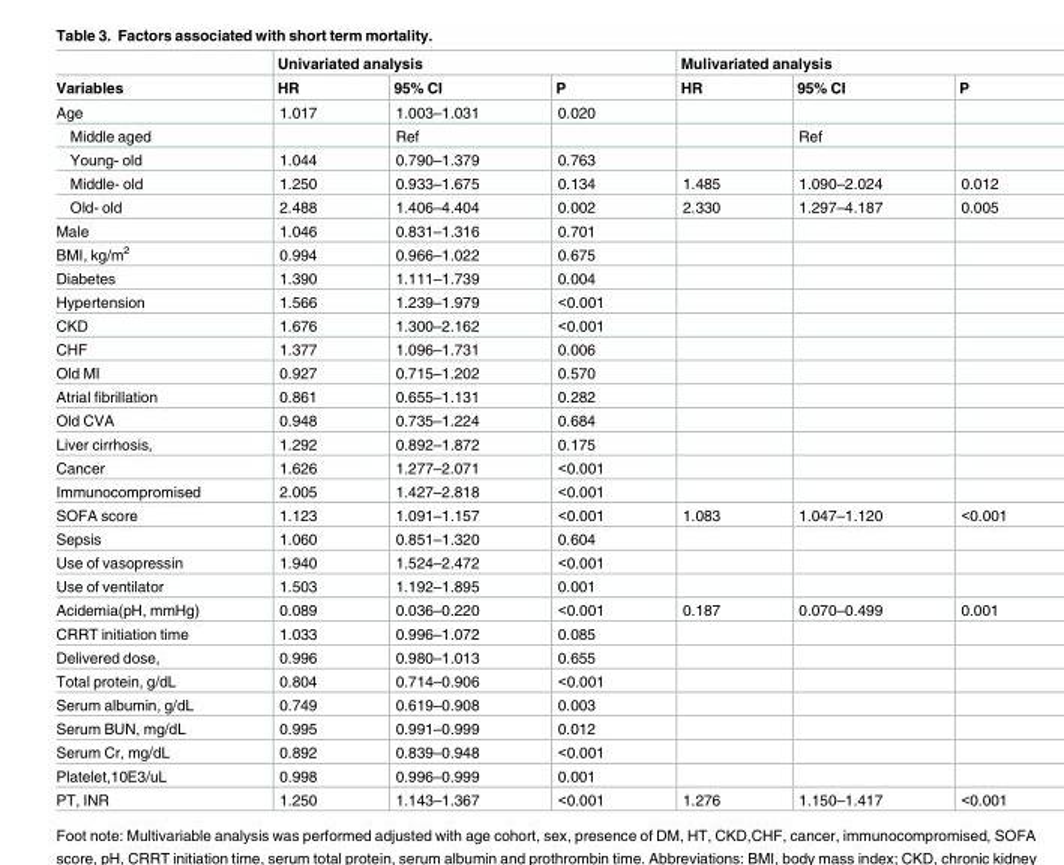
<table><thead><tr><td rowspan="2">Variables</td><td colspan="3">Univariated analysis</td><td colspan="3">Mulivariated analysis</td></tr><tr><td>HR</td><td>95% CI</td><td>P</td><td>HR</td><td>95% CI</td><td>P</td></tr></thead><tbody><tr><td>Age</td><td>1.017</td><td>1.003–1.031</td><td>0.020</td><td></td><td></td><td></td></tr><tr><td>Middle aged</td><td></td><td>Ref</td><td></td><td></td><td>Ref</td><td></td></tr><tr><td>Young- old</td><td>1.044</td><td>0.790–1.379</td><td>0.763</td><td></td><td></td><td></td></tr><tr><td>Middle- old</td><td>1.250</td><td>0.933–1.675</td><td>0.134</td><td>1.485</td><td>1.090–2.024</td><td>0.012</td></tr><tr><td>Old- old</td><td>2.488</td><td>1.406–4.404</td><td>0.002</td><td>2.330</td><td>1.297–4.187</td><td>0.005</td></tr><tr><td>Male</td><td>1.046</td><td>0.831–1.316</td><td>0.701</td><td></td><td></td><td></td></tr><tr><td>BMI, kg/m<sup>2</sup></td><td>0.994</td><td>0.966–1.022</td><td>0.675</td><td></td><td></td><td></td></tr><tr><td>Diabetes</td><td>1.390</td><td>1.111–1.739</td><td>0.004</td><td></td><td></td><td></td></tr><tr><td>Hypertension</td><td>1.566</td><td>1.239–1.979</td><td>&lt;0.001</td><td></td><td></td><td></td></tr><tr><td>CKD</td><td>1.676</td><td>1.300–2.162</td><td>&lt;0.001</td><td></td><td></td><td></td></tr><tr><td>CHF</td><td>1.377</td><td>1.096–1.731</td><td>0.006</td><td></td><td></td><td></td></tr><tr><td>Old MI</td><td>0.927</td><td>0.715–1.202</td><td>0.570</td><td></td><td></td><td></td></tr><tr><td>Atrial fibrillation</td><td>0.861</td><td>0.655–1.131</td><td>0.282</td><td></td><td></td><td></td></tr><tr><td>Old CVA</td><td>0.948</td><td>0.735–1.224</td><td>0.684</td><td></td><td></td><td></td></tr><tr><td>Liver cirrhosis,</td><td>1.292</td><td>0.892–1.872</td><td>0.175</td><td></td><td></td><td></td></tr><tr><td>Cancer</td><td>1.626</td><td>1.277–2.071</td><td>&lt;0.001</td><td></td><td></td><td></td></tr><tr><td>Immunocompromised</td><td>2.005</td><td>1.427–2.818</td><td>&lt;0.001</td><td></td><td></td><td></td></tr><tr><td>SOFA score</td><td>1.123</td><td>1.091–1.157</td><td>&lt;0.001</td><td>1.083</td><td>1.047–1.120</td><td>&lt;0.001</td></tr><tr><td>Sepsis</td><td>1.060</td><td>0.851–1.320</td><td>0.604</td><td></td><td></td><td></td></tr><tr><td>Use of vasopressin</td><td>1.940</td><td>1.524–2.472</td><td>&lt;0.001</td><td></td><td></td><td></td></tr><tr><td>Use of ventilator</td><td>1.503</td><td>1.192–1.895</td><td>0.001</td><td></td><td></td><td></td></tr><tr><td>Acidemia(pH, mmHg)</td><td>0.089</td><td>0.036–0.220</td><td>&lt;0.001</td><td>0.187</td><td>0.070–0.499</td><td>0.001</td></tr><tr><td>CRRT initiation time</td><td>1.033</td><td>0.996–1.072</td><td>0.085</td><td></td><td></td><td></td></tr><tr><td>Delivered dose,</td><td>0.996</td><td>0.980–1.013</td><td>0.655</td><td></td><td></td><td></td></tr><tr><td>Total protein, g/dL</td><td>0.804</td><td>0.714–0.906</td><td>&lt;0.001</td><td></td><td></td><td></td></tr><tr><td>Serum albumin, g/dL</td><td>0.749</td><td>0.619–0.908</td><td>0.003</td><td></td><td></td><td></td></tr><tr><td>Serum BUN, mg/dL</td><td>0.995</td><td>0.991–0.999</td><td>0.012</td><td></td><td></td><td></td></tr><tr><td>Serum Cr, mg/dL</td><td>0.892</td><td>0.839–0.948</td><td>&lt;0.001</td><td></td><td></td><td></td></tr><tr><td>Platelet,10E3/uL</td><td>0.998</td><td>0.996–0.999</td><td>0.001</td><td></td><td></td><td></td></tr><tr><td>PT, INR</td><td>1.250</td><td>1.143–1.367</td><td>&lt;0.001</td><td>1.276</td><td>1.150–1.417</td><td>&lt;0.001</td></tr></tbody></table>